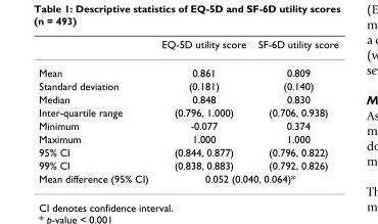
<table><thead><tr><td></td><td>EQ-5D utility score</td><td>SF-6D utility score</td></tr></thead><tbody><tr><td>Mean</td><td>0.861</td><td>0.809</td></tr><tr><td>Standard deviation</td><td>(0.181)</td><td>(0.140)</td></tr><tr><td>Median</td><td>0.848</td><td>0.830</td></tr><tr><td>Inter-quartile range</td><td>(0.796, 1.000)</td><td>(0.706, 0.938)</td></tr><tr><td>Minimum</td><td>-0.077</td><td>0.374</td></tr><tr><td>Maximum</td><td>1.000</td><td>1.000</td></tr><tr><td>95% CI</td><td>(0.844, 0.877)</td><td>(0.796, 0.822)</td></tr><tr><td>99% CI</td><td>(0.838, 0.883)</td><td>(0.792, 0.826)</td></tr><tr><td>Mean difference (95% CI)</td><td colspan="2">0.052 (0.040, 0.064)*</td></tr></tbody></table>